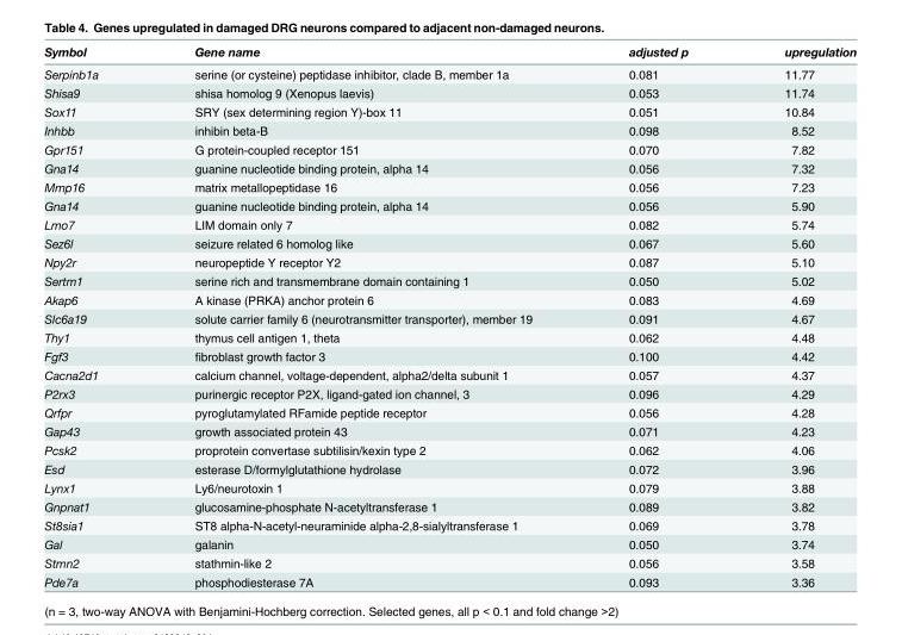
<table><thead><tr><td>Symbol</td><td>Gene name</td><td>adjusted p</td><td>upregulation</td></tr></thead><tbody><tr><td>Serpinb1a</td><td>serine (or cysteine) peptidase inhibitor, clade B, member 1a</td><td>0.081</td><td>11.77</td></tr><tr><td>Shisa9</td><td>shisa homolog 9 (Xenopus laevis)</td><td>0.053</td><td>11.74</td></tr><tr><td>Sox11</td><td>SRY (sex determining region Y)-box 11</td><td>0.051</td><td>10.84</td></tr><tr><td>Inhbb</td><td>inhibin beta-B</td><td>0.098</td><td>8.52</td></tr><tr><td>Gpr151</td><td>G protein-coupled receptor 151</td><td>0.070</td><td>7.82</td></tr><tr><td>Gna14</td><td>guanine nucleotide binding protein, alpha 14</td><td>0.056</td><td>7.32</td></tr><tr><td>Mmp16</td><td>matrix metallopeptidase 16</td><td>0.056</td><td>7.23</td></tr><tr><td>Gna14</td><td>guanine nucleotide binding protein, alpha 14</td><td>0.056</td><td>5.90</td></tr><tr><td>Lmo7</td><td>LIM domain only 7</td><td>0.082</td><td>5.74</td></tr><tr><td>Sez6l</td><td>seizure related 6 homolog like</td><td>0.067</td><td>5.60</td></tr><tr><td>Npy2r</td><td>neuropeptide Y receptor Y2</td><td>0.087</td><td>5.10</td></tr><tr><td>Sertm1</td><td>serine rich and transmembrane domain containing 1</td><td>0.050</td><td>5.02</td></tr><tr><td>Akap6</td><td>A kinase (PRKA) anchor protein 6</td><td>0.083</td><td>4.69</td></tr><tr><td>Slc6a19</td><td>solute carrier family 6 (neurotransmitter transporter), member 19</td><td>0.091</td><td>4.67</td></tr><tr><td>Thy1</td><td>thymus cell antigen 1, theta</td><td>0.062</td><td>4.48</td></tr><tr><td>Fgf3</td><td>fibroblast growth factor 3</td><td>0.100</td><td>4.42</td></tr><tr><td>Cacna2d1</td><td>calcium channel, voltage-dependent, alpha2/delta subunit 1</td><td>0.057</td><td>4.37</td></tr><tr><td>P2rx3</td><td>purinergic receptor P2X, ligand-gated ion channel, 3</td><td>0.096</td><td>4.29</td></tr><tr><td>Qrfpr</td><td>pyroglutamylated RFamide peptide receptor</td><td>0.056</td><td>4.28</td></tr><tr><td>Gap43</td><td>growth associated protein 43</td><td>0.071</td><td>4.23</td></tr><tr><td>Pcsk2</td><td>proprotein convertase subtilisin/kexin type 2</td><td>0.062</td><td>4.06</td></tr><tr><td>Esd</td><td>esterase D/formylglutathione hydrolase</td><td>0.072</td><td>3.96</td></tr><tr><td>Lynx1</td><td>Ly6/neurotoxin 1</td><td>0.079</td><td>3.88</td></tr><tr><td>Gnpnat1</td><td>glucosamine-phosphate N-acetyltransferase 1</td><td>0.089</td><td>3.82</td></tr><tr><td>St8sia1</td><td>ST8 alpha-N-acetyl-neuraminide alpha-2,8-sialyltransferase 1</td><td>0.069</td><td>3.78</td></tr><tr><td>Gal</td><td>galanin</td><td>0.050</td><td>3.74</td></tr><tr><td>Stmn2</td><td>stathmin-like 2</td><td>0.056</td><td>3.58</td></tr><tr><td>Pde7a</td><td>phosphodiesterase 7A</td><td>0.093</td><td>3.36</td></tr></tbody></table>